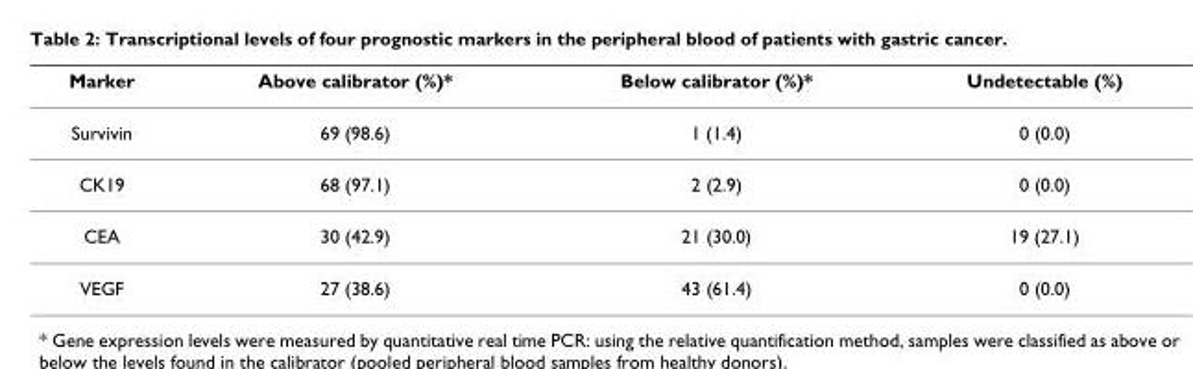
<table><thead><tr><td>Marker</td><td>Above calibrator (%)*</td><td>Below calibrator (%)*</td><td>Undetectable (%)</td></tr></thead><tbody><tr><td>Survivin</td><td>69 (98.6)</td><td>1 (1.4)</td><td>0 (0.0)</td></tr><tr><td>CK19</td><td>68 (97.1)</td><td>2 (2.9)</td><td>0 (0.0)</td></tr><tr><td>CEA</td><td>30 (42.9)</td><td>21 (30.0)</td><td>19 (27.1)</td></tr><tr><td>VEGF</td><td>27 (38.6)</td><td>43 (61.4)</td><td>0 (0.0)</td></tr></tbody></table>